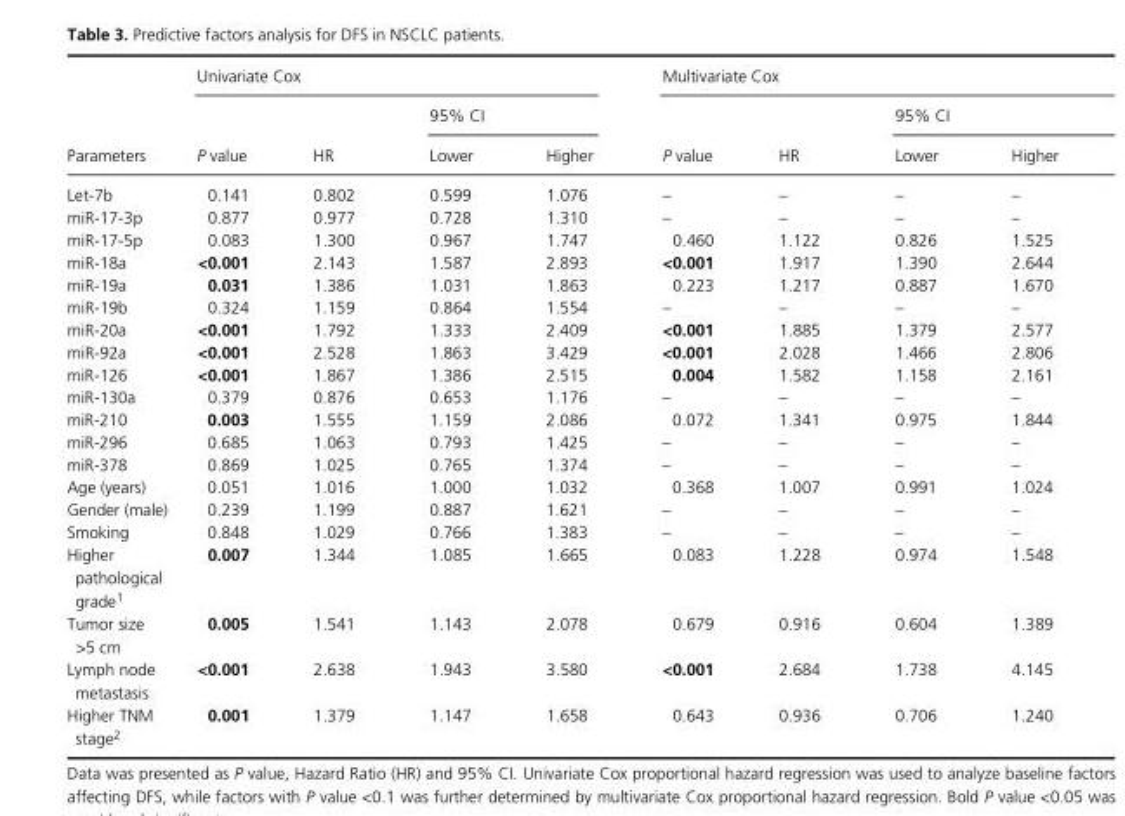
<table><thead><tr><td rowspan="3">Parameters</td><td colspan="4">Univariate Cox</td><td colspan="4">Multivariate Cox</td></tr><tr><td rowspan="2">P value</td><td rowspan="2">HR</td><td colspan="2">95% CI</td><td rowspan="2">P value</td><td rowspan="2">HR</td><td colspan="2">95% CI</td></tr><tr><td>Lower</td><td>Higher</td><td>Lower</td><td>Higher</td></tr></thead><tbody><tr><td>Let- 7b</td><td>0.141</td><td>0.802</td><td>0.599</td><td>1.076</td><td>–</td><td>–</td><td>–</td><td>–</td></tr><tr><td>miR- 17- 3p</td><td>0.877</td><td>0.977</td><td>0.728</td><td>1.310</td><td>–</td><td>–</td><td>–</td><td>–</td></tr><tr><td>miR- 17- 5p</td><td>0.083</td><td>1.300</td><td>0.967</td><td>1.747</td><td>0.460</td><td>1.122</td><td>0.826</td><td>1.525</td></tr><tr><td>miR- 18a</td><td>&lt;0.001</td><td>2.143</td><td>1.587</td><td>2.893</td><td>&lt;0.001</td><td>1.917</td><td>1.390</td><td>2.644</td></tr><tr><td>miR- 19a</td><td>0.031</td><td>1.386</td><td>1.031</td><td>1.863</td><td>0.223</td><td>1.217</td><td>0.887</td><td>1.670</td></tr><tr><td>miR- 19b</td><td>0.324</td><td>1.159</td><td>0.864</td><td>1.554</td><td>–</td><td>–</td><td>–</td><td>–</td></tr><tr><td>miR- 20a</td><td>&lt;0.001</td><td>1.792</td><td>1.333</td><td>2.409</td><td>&lt;0.001</td><td>1.885</td><td>1.379</td><td>2.577</td></tr><tr><td>miR- 92a</td><td>&lt;0.001</td><td>2.528</td><td>1.863</td><td>3.429</td><td>&lt;0.001</td><td>2.028</td><td>1.466</td><td>2.806</td></tr><tr><td>miR- 126</td><td>&lt;0.001</td><td>1.867</td><td>1.386</td><td>2.515</td><td>0.004</td><td>1.582</td><td>1.158</td><td>2.161</td></tr><tr><td>miR- 130a</td><td>0.379</td><td>0.876</td><td>0.653</td><td>1.176</td><td>–</td><td>–</td><td>–</td><td>–</td></tr><tr><td>miR- 210</td><td>0.003</td><td>1.555</td><td>1.159</td><td>2.086</td><td>0.072</td><td>1.341</td><td>0.975</td><td>1.844</td></tr><tr><td>miR- 296</td><td>0.685</td><td>1.063</td><td>0.793</td><td>1.425</td><td>–</td><td>–</td><td>–</td><td>–</td></tr><tr><td>miR- 378</td><td>0.869</td><td>1.025</td><td>0.765</td><td>1.374</td><td>–</td><td>–</td><td>–</td><td>–</td></tr><tr><td>Age (years)</td><td>0.051</td><td>1.016</td><td>1.000</td><td>1.032</td><td>0.368</td><td>1.007</td><td>0.991</td><td>1.024</td></tr><tr><td>Gender (male)</td><td>0.239</td><td>1.199</td><td>0.887</td><td>1.621</td><td>–</td><td>–</td><td>–</td><td>–</td></tr><tr><td>Smoking</td><td>0.848</td><td>1.029</td><td>0.766</td><td>1.383</td><td>–</td><td>–</td><td>–</td><td>–</td></tr><tr><td>Higher pathological grade1</td><td>0.007</td><td>1.344</td><td>1.085</td><td>1.665</td><td>0.083</td><td>1.228</td><td>0.974</td><td>1.548</td></tr><tr><td>Tumor size &gt;5 cm</td><td>0.005</td><td>1.541</td><td>1.143</td><td>2.078</td><td>0.679</td><td>0.916</td><td>0.604</td><td>1.389</td></tr><tr><td>Lymph node metastasis</td><td>&lt;0.001</td><td>2.638</td><td>1.943</td><td>3.580</td><td>&lt;0.001</td><td>2.684</td><td>1.738</td><td>4.145</td></tr><tr><td>Higher TNM stage2</td><td>0.001</td><td>1.379</td><td>1.147</td><td>1.658</td><td>0.643</td><td>0.936</td><td>0.706</td><td>1.240</td></tr></tbody></table>